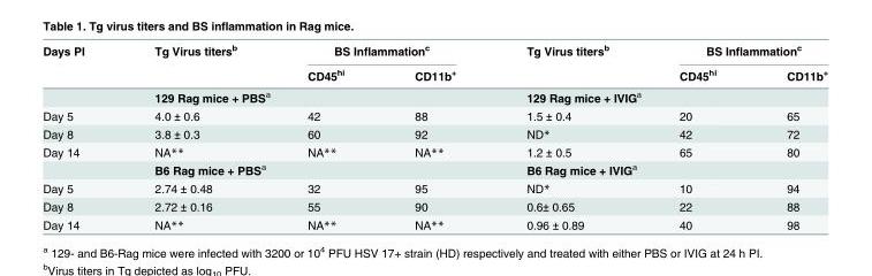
<table><thead><tr><td rowspan="2">Days PI</td><td rowspan="2">Tg Virus titers<sup>b</sup></td><td colspan="2">BS Inflammation<sup>c</sup></td><td rowspan="2">Tg Virus titers<sup>b</sup></td><td colspan="2">BS Inflammation<sup>c</sup></td></tr><tr><td>CD45<sup>hi</sup></td><td>CD11b<sup>+</sup></td><td>CD45<sup>hi</sup></td><td>CD11b<sup>+</sup></td></tr></thead><tbody><tr><td></td><td colspan="3">129 Rag mice + PBS<sup>a</sup></td><td colspan="3">129 Rag mice + IVIG<sup>a</sup></td></tr><tr><td>Day 5</td><td>4.0 ± 0.6</td><td>42</td><td>88</td><td>1.5 ± 0.4</td><td>20</td><td>65</td></tr><tr><td>Day 8</td><td>3.8 ± 0.3</td><td>60</td><td>92</td><td>ND*</td><td>42</td><td>72</td></tr><tr><td rowspan="2">Day 14</td><td>NA**</td><td>NA**</td><td>NA**</td><td>1.2 ± 0.5</td><td>65</td><td>80</td></tr><tr><td colspan="3">B6 Rag mice + PBS<sup>a</sup></td><td colspan="3">B6 Rag mice + IVIG<sup>a</sup></td></tr><tr><td>Day 5</td><td>2.74 ± 0.48</td><td>32</td><td>95</td><td>ND*</td><td>10</td><td>94</td></tr><tr><td>Day 8</td><td>2.72 ± 0.16</td><td>55</td><td>90</td><td>0.6± 0.65</td><td>22</td><td>88</td></tr><tr><td>Day 14</td><td>NA**</td><td>NA**</td><td>NA**</td><td>0.96 ± 0.89</td><td>40</td><td>98</td></tr></tbody></table>